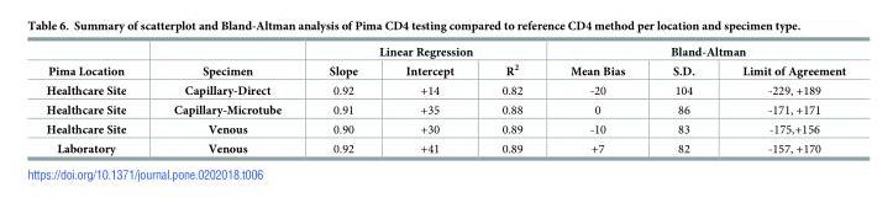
<table><thead><tr><td rowspan="2">Pima Location</td><td rowspan="2">Specimen</td><td colspan="3">Linear Regression</td><td colspan="3">Bland-Altman</td></tr><tr><td>Slope</td><td>Intercept</td><td>R<sup>2</sup></td><td>Mean Bias</td><td>S.D.</td><td>Limit of Agreement</td></tr></thead><tbody><tr><td>Healthcare Site</td><td>Capillary-Direct</td><td>0.92</td><td>+14</td><td>0.82</td><td>-20</td><td>104</td><td>-229, +189</td></tr><tr><td>Healthcare Site</td><td>Capillary-Microtube</td><td>0.91</td><td>+35</td><td>0.88</td><td>0</td><td>86</td><td>-171, +171</td></tr><tr><td>Healthcare Site</td><td>Venous</td><td>0.90</td><td>+30</td><td>0.89</td><td>-10</td><td>83</td><td>-175,+156</td></tr><tr><td>Laboratory</td><td>Venous</td><td>0.92</td><td>+41</td><td>0.89</td><td>+7</td><td>82</td><td>-157, +170</td></tr></tbody></table>